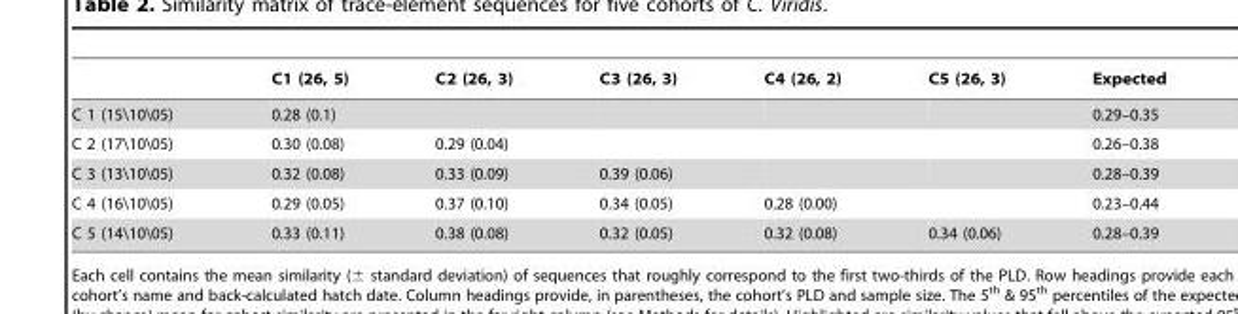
<table><thead><tr><td></td><td>C1 (26, 5)</td><td>C2 (26, 3)</td><td>C3 (26, 3)</td><td>C4 (26, 2)</td><td>C5 (26, 3)</td><td>Expected</td></tr></thead><tbody><tr><td>C 1 (15\10\05)</td><td>0.28 (0.1)</td><td></td><td></td><td></td><td></td><td>0.29–0.35</td></tr><tr><td>C 2 (17\10\05)</td><td>0.30 (0.08)</td><td>0.29 (0.04)</td><td></td><td></td><td></td><td>0.26–0.38</td></tr><tr><td>C 3 (13\10\05)</td><td>0.32 (0.08)</td><td>0.33 (0.09)</td><td>0.39 (0.06)</td><td></td><td></td><td>0.28–0.39</td></tr><tr><td>C 4 (16\10\05)</td><td>0.29 (0.05)</td><td>0.37 (0.10)</td><td>0.34 (0.05)</td><td>0.28 (0.00)</td><td></td><td>0.23–0.44</td></tr><tr><td>C 5 (14\10\05)</td><td>0.33 (0.11)</td><td>0.38 (0.08)</td><td>0.32 (0.05)</td><td>0.32 (0.08)</td><td>0.34 (0.06)</td><td>0.28–0.39</td></tr></tbody></table>